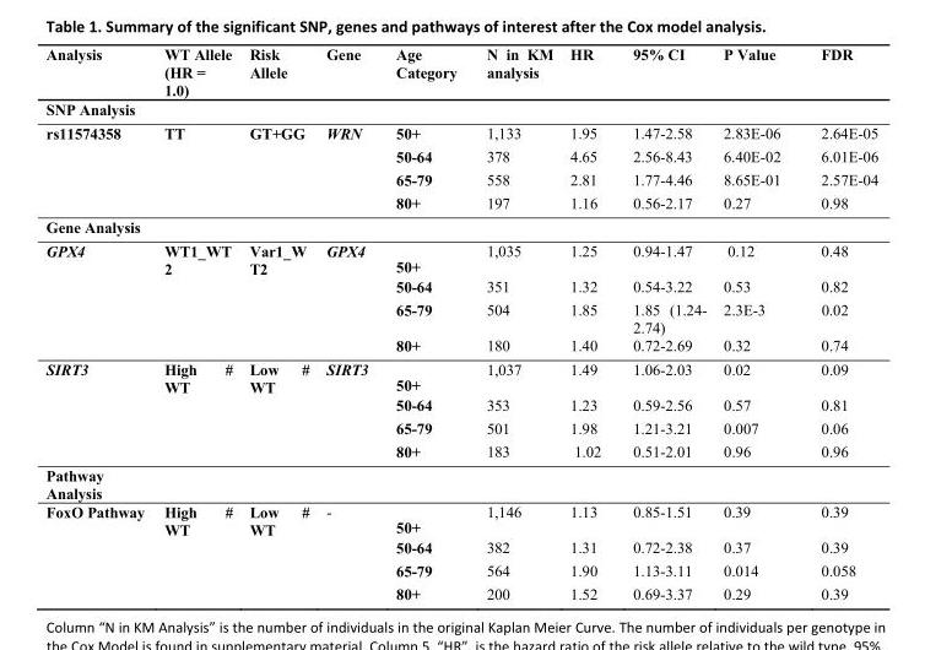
<table><thead><tr><td>Analysis</td><td>WT Allele (HR = 1.0)</td><td>Risk Allele</td><td>Gene</td><td>Age Category</td><td>N in KM analysis</td><td>HR</td><td>95% CI</td><td>P Value</td><td>FDR</td></tr></thead><tbody><tr><td colspan="10">SNP Analysis</td></tr><tr><td rowspan="4">rs11574358</td><td rowspan="4">TT</td><td rowspan="4">GT+GG</td><td rowspan="4">WRN</td><td>50+</td><td>1,133</td><td>1.95</td><td>1.47-2.58</td><td>2.83E-06</td><td>2.64E-05</td></tr><tr><td>50-64</td><td>378</td><td>4.65</td><td>2.56-8.43</td><td>6.40E-02</td><td>6.01E-06</td></tr><tr><td>65-79</td><td>558</td><td>2.81</td><td>1.77-4.46</td><td>8.65E-01</td><td>2.57E-04</td></tr><tr><td>80+</td><td>197</td><td>1.16</td><td>0.56-2.17</td><td>0.27</td><td>0.98</td></tr><tr><td colspan="10">Gene Analysis</td></tr><tr><td rowspan="4">GPX4</td><td rowspan="4">WT1_WT 2</td><td rowspan="4">Var1_W T2</td><td rowspan="4">GPX4</td><td>50+</td><td>1,035</td><td>1.25</td><td>0.94-1.47</td><td>0.12</td><td>0.48</td></tr><tr><td>50-64</td><td>351</td><td>1.32</td><td>0.54-3.22</td><td>0.53</td><td>0.82</td></tr><tr><td>65-79</td><td>504</td><td>1.85</td><td>1.85 (1.24- 2.74)</td><td>2.3E-3</td><td>0.02</td></tr><tr><td>80+</td><td>180</td><td>1.40</td><td>0.72-2.69</td><td>0.32</td><td>0.74</td></tr><tr><td rowspan="4">SIRT3</td><td rowspan="4">High # WT</td><td rowspan="4">Low # WT</td><td rowspan="4">SIRT3</td><td>50+</td><td>1,037</td><td>1.49</td><td>1.06-2.03</td><td>0.02</td><td>0.09</td></tr><tr><td>50-64</td><td>353</td><td>1.23</td><td>0.59-2.56</td><td>0.57</td><td>0.81</td></tr><tr><td>65-79</td><td>501</td><td>1.98</td><td>1.21-3.21</td><td>0.007</td><td>0.06</td></tr><tr><td>80+</td><td>183</td><td>1.02</td><td>0.51-2.01</td><td>0.96</td><td>0.96</td></tr><tr><td colspan="10">Pathway Analysis</td></tr><tr><td rowspan="4">FoxO Pathway</td><td rowspan="4">High # WT</td><td rowspan="4">Low # WT</td><td rowspan="4">-</td><td>50+</td><td>1,146</td><td>1.13</td><td>0.85-1.51</td><td>0.39</td><td>0.39</td></tr><tr><td>50-64</td><td>382</td><td>1.31</td><td>0.72-2.38</td><td>0.37</td><td>0.39</td></tr><tr><td>65-79</td><td>564</td><td>1.90</td><td>1.13-3.11</td><td>0.014</td><td>0.058</td></tr><tr><td>80+</td><td>200</td><td>1.52</td><td>0.69-3.37</td><td>0.29</td><td>0.39</td></tr></tbody></table>